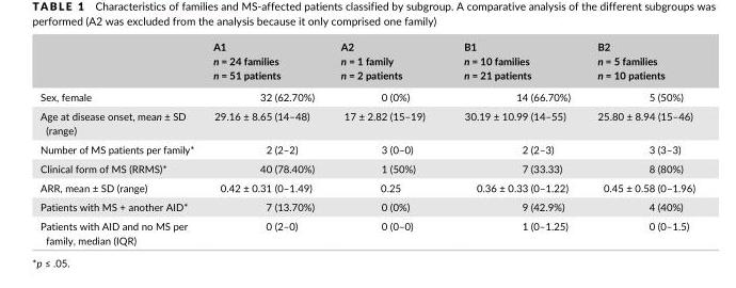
<table><thead><tr><td></td><td>A1 n = 24 families n = 51 patients</td><td>A2 n = 1 family n = 2 patients</td><td>B1 n = 10 families n = 21 patients</td><td>B2 n = 5 families n = 10 patients</td></tr></thead><tbody><tr><td>Sex, female</td><td>32 (62.70%)</td><td>0 (0%)</td><td>14 (66.70%)</td><td>5 (50%)</td></tr><tr><td>Age at disease onset, mean ± SD (range)</td><td>29.16 ± 8.65 (14–48)</td><td>17 ± 2.82 (15–19)</td><td>30.19 ± 10.99 (14–55)</td><td>25.80 ± 8.94 (15–46)</td></tr><tr><td>Number of MS patients per family*</td><td>2 (2–2)</td><td>3 (0–0)</td><td>2 (2–3)</td><td>3 (3–3)</td></tr><tr><td>Clinical form of MS (RRMS)*</td><td>40 (78.40%)</td><td>1 (50%)</td><td>7 (33.33)</td><td>8 (80%)</td></tr><tr><td>ARR, mean ± SD (range)</td><td>0.42 ± 0.31 (0–1.49)</td><td>0.25</td><td>0.36 ± 0.33 (0–1.22)</td><td>0.45 ± 0.58 (0–1.96)</td></tr><tr><td>Patients with MS + another AID*</td><td>7 (13.70%)</td><td>0 (0%)</td><td>9 (42.9%)</td><td>4 (40%)</td></tr><tr><td>Patients with AID and no MS per family, median (IQR)</td><td>0 (2–0)</td><td>0 (0–0)</td><td>1 (0–1.25)</td><td>0 (0–1.5)</td></tr></tbody></table>